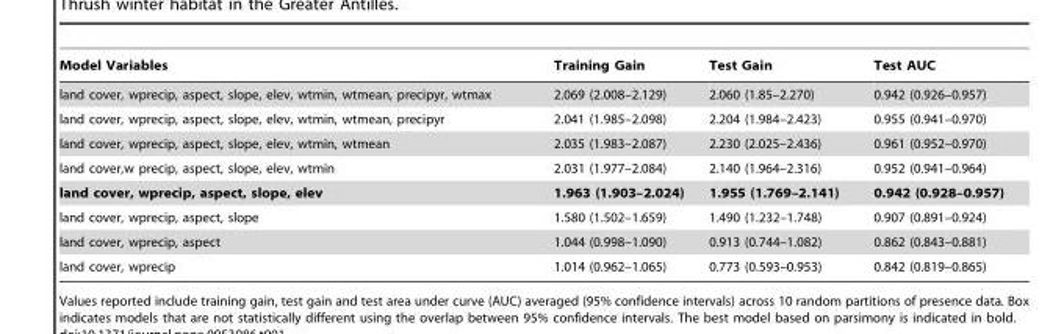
<table><thead><tr><td>Model Variables</td><td>Training Gain</td><td>Test Gain</td><td>Test AUC</td></tr></thead><tbody><tr><td>land cover, wprecip, aspect, slope, elev, wtmin, wtmean, precipyr, wtmax</td><td>2.069 (2.008–2.129)</td><td>2.060 (1.85–2.270)</td><td>0.942 (0.926–0.957)</td></tr><tr><td>land cover, wprecip, aspect, slope, elev, wtmin, wtmean, precipyr</td><td>2.041 (1.985–2.098)</td><td>2.204 (1.984–2.423)</td><td>0.955 (0.941–0.970)</td></tr><tr><td>land cover, wprecip, aspect, slope, elev, wtmin, wtmean</td><td>2.035 (1.983–2.087)</td><td>2.230 (2.025–2.436)</td><td>0.961 (0.952–0.970)</td></tr><tr><td>land cover,w precip, aspect, slope, elev, wtmin</td><td>2.031 (1.977–2.084)</td><td>2.140 (1.964–2.316)</td><td>0.952 (0.941–0.964)</td></tr><tr><td>land cover, wprecip, aspect, slope, elev</td><td>1.963 (1.903–2.024)</td><td>1.955 (1.769–2.141)</td><td>0.942 (0.928–0.957)</td></tr><tr><td>land cover, wprecip, aspect, slope</td><td>1.580 (1.502–1.659)</td><td>1.490 (1.232–1.748)</td><td>0.907 (0.891–0.924)</td></tr><tr><td>land cover, wprecip, aspect</td><td>1.044 (0.998–1.090)</td><td>0.913 (0.744–1.082)</td><td>0.862 (0.843–0.881)</td></tr><tr><td>land cover, wprecip</td><td>1.014 (0.962–1.065)</td><td>0.773 (0.593–0.953)</td><td>0.842 (0.819–0.865)</td></tr></tbody></table>